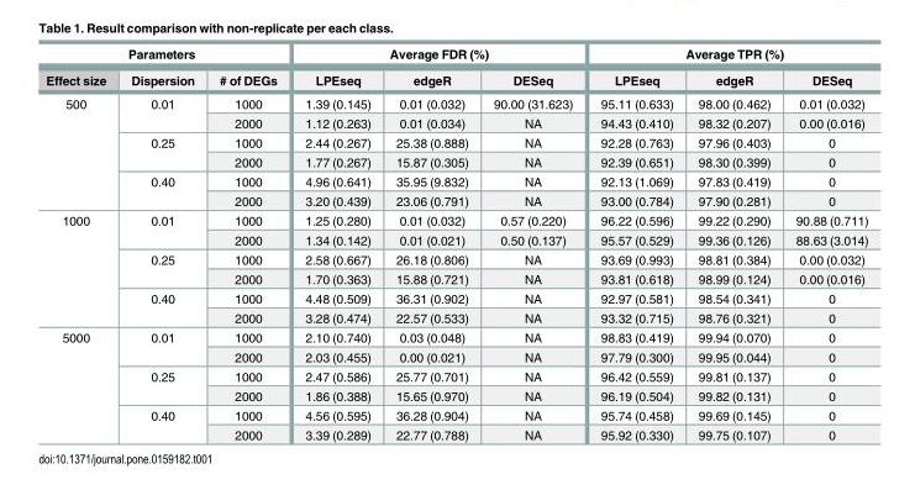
<table><thead><tr><td colspan="3">Parameters</td><td colspan="3">Average FDR (%)</td><td colspan="3">Average TPR (%)</td></tr><tr><td>Effect size</td><td>Dispersion</td><td># of DEGs</td><td>LPEseq</td><td>edgeR</td><td>DESeq</td><td>LPEseq</td><td>edgeR</td><td>DESeq</td></tr></thead><tbody><tr><td rowspan="6">500</td><td rowspan="2">0.01</td><td>1000</td><td>1.39 (0.145)</td><td>0.01 (0.032)</td><td>90.00 (31.623)</td><td>95.11 (0.633)</td><td>98.00 (0.462)</td><td>0.01 (0.032)</td></tr><tr><td>2000</td><td>1.12 (0.263)</td><td>0.01 (0.034)</td><td>NA</td><td>94.43 (0.410)</td><td>98.32 (0.207)</td><td>0.00 (0.016)</td></tr><tr><td rowspan="2">0.25</td><td>1000</td><td>2.44 (0.267)</td><td>25.38 (0.888)</td><td>NA</td><td>92.28 (0.763)</td><td>97.96 (0.403)</td><td>0</td></tr><tr><td>2000</td><td>1.77 (0.267)</td><td>15.87 (0.305)</td><td>NA</td><td>92.39 (0.651)</td><td>98.30 (0.399)</td><td>0</td></tr><tr><td rowspan="2">0.40</td><td>1000</td><td>4.96 (0.641)</td><td>35.95 (9.832)</td><td>NA</td><td>92.13 (1.069)</td><td>97.83 (0.419)</td><td>0</td></tr><tr><td>2000</td><td>3.20 (0.439)</td><td>23.06 (0.791)</td><td>NA</td><td>93.00 (0.784)</td><td>97.90 (0.281)</td><td>0</td></tr><tr><td rowspan="6">1000</td><td rowspan="2">0.01</td><td>1000</td><td>1.25 (0.280)</td><td>0.01 (0.032)</td><td>0.57 (0.220)</td><td>96.22 (0.596)</td><td>99.22 (0.290)</td><td>90.88 (0.711)</td></tr><tr><td>2000</td><td>1.34 (0.142)</td><td>0.01 (0.021)</td><td>0.50 (0.137)</td><td>95.57 (0.529)</td><td>99.36 (0.126)</td><td>88.63 (3.014)</td></tr><tr><td rowspan="2">0.25</td><td>1000</td><td>2.58 (0.667)</td><td>26.18 (0.806)</td><td>NA</td><td>93.69 (0.993)</td><td>98.81 (0.384)</td><td>0.00 (0.032)</td></tr><tr><td>2000</td><td>1.70 (0.363)</td><td>15.88 (0.721)</td><td>NA</td><td>93.81 (0.618)</td><td>98.99 (0.124)</td><td>0.00 (0.016)</td></tr><tr><td rowspan="2">0.40</td><td>1000</td><td>4.48 (0.509)</td><td>36.31 (0.902)</td><td>NA</td><td>92.97 (0.581)</td><td>98.54 (0.341)</td><td>0</td></tr><tr><td>2000</td><td>3.28 (0.474)</td><td>22.57 (0.533)</td><td>NA</td><td>93.32 (0.715)</td><td>98.76 (0.321)</td><td>0</td></tr><tr><td rowspan="6">5000</td><td rowspan="2">0.01</td><td>1000</td><td>2.10 (0.740)</td><td>0.03 (0.048)</td><td>NA</td><td>98.83 (0.419)</td><td>99.94 (0.070)</td><td>0</td></tr><tr><td>2000</td><td>2.03 (0.455)</td><td>0.00 (0.021)</td><td>NA</td><td>97.79 (0.300)</td><td>99.95 (0.044)</td><td>0</td></tr><tr><td rowspan="2">0.25</td><td>1000</td><td>2.47 (0.586)</td><td>25.77 (0.701)</td><td>NA</td><td>96.42 (0.559)</td><td>99.81 (0.137)</td><td>0</td></tr><tr><td>2000</td><td>1.86 (0.388)</td><td>15.65 (0.970)</td><td>NA</td><td>96.19 (0.504)</td><td>99.82 (0.131)</td><td>0</td></tr><tr><td rowspan="2">0.40</td><td>1000</td><td>4.56 (0.595)</td><td>36.28 (0.904)</td><td>NA</td><td>95.74 (0.458)</td><td>99.69 (0.145)</td><td>0</td></tr><tr><td>2000</td><td>3.39 (0.289)</td><td>22.77 (0.788)</td><td>NA</td><td>95.92 (0.330)</td><td>99.75 (0.107)</td><td>0</td></tr></tbody></table>